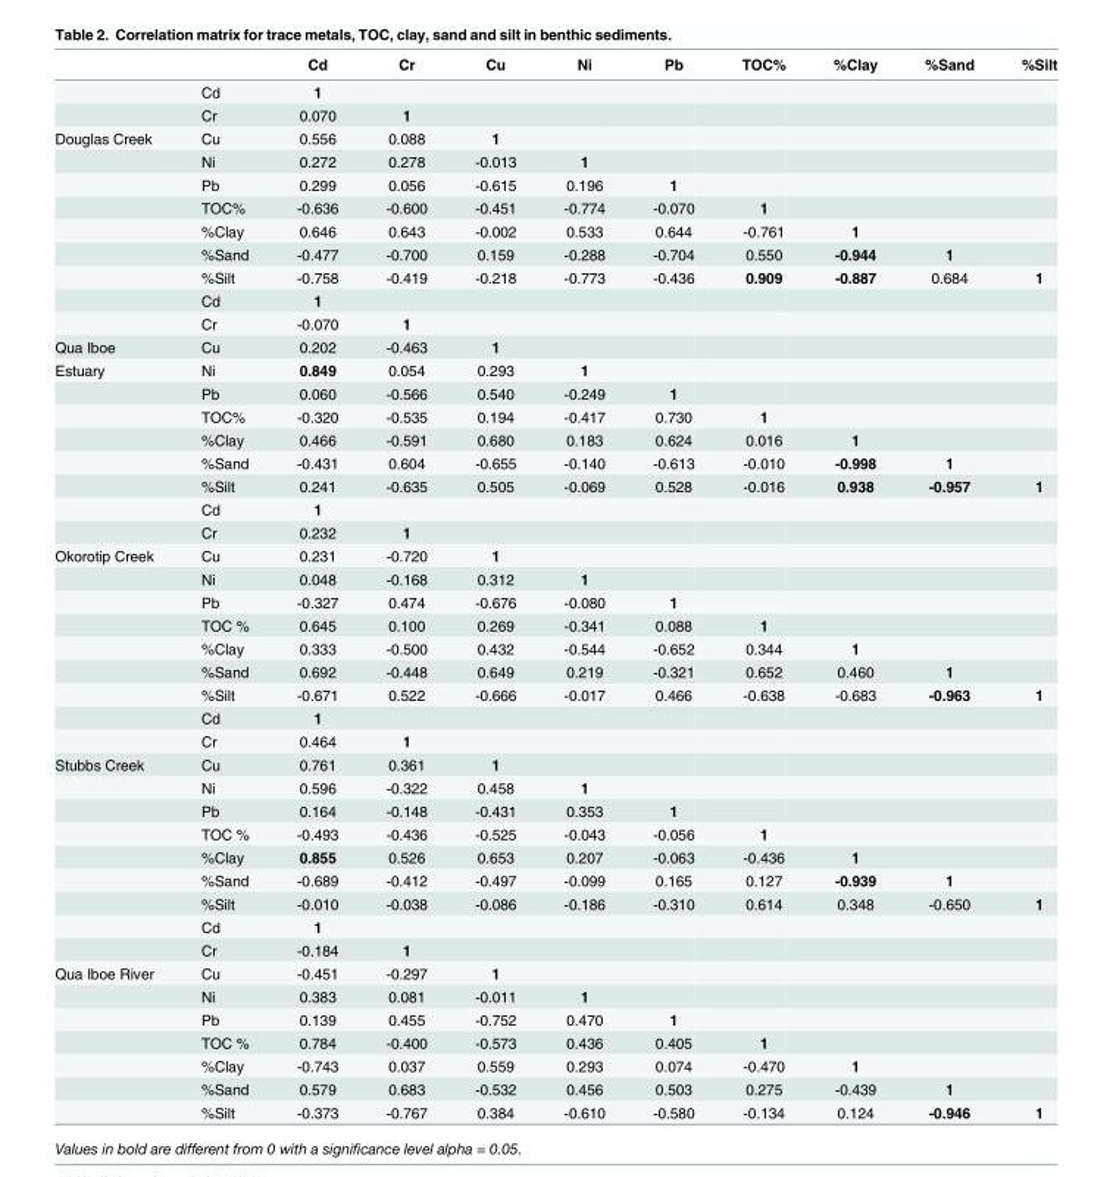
<table><thead><tr><td></td><td></td><td>Cd</td><td>Cr</td><td>Cu</td><td>Ni</td><td>Pb</td><td>TOC%</td><td>%Clay</td><td>%Sand</td><td>%Silt</td></tr></thead><tbody><tr><td></td><td>Cd</td><td>1</td><td></td><td></td><td></td><td></td><td></td><td></td><td></td><td></td></tr><tr><td></td><td>Cr</td><td>0.070</td><td>1</td><td></td><td></td><td></td><td></td><td></td><td></td><td></td></tr><tr><td rowspan="9">Douglas Creek</td><td>Cu</td><td>0.556</td><td>0.088</td><td>1</td><td></td><td></td><td></td><td></td><td></td><td></td></tr><tr><td>Ni</td><td>0.272</td><td>0.278</td><td>-0.013</td><td>1</td><td></td><td></td><td></td><td></td><td></td></tr><tr><td>Pb</td><td>0.299</td><td>0.056</td><td>-0.615</td><td>0.196</td><td>1</td><td></td><td></td><td></td><td></td></tr><tr><td>TOC%</td><td>-0.636</td><td>-0.600</td><td>-0.451</td><td>-0.774</td><td>-0.070</td><td>1</td><td></td><td></td><td></td></tr><tr><td>%Clay</td><td>0.646</td><td>0.643</td><td>-0.002</td><td>0.533</td><td>0.644</td><td>-0.761</td><td>1</td><td></td><td></td></tr><tr><td>%Sand</td><td>-0.477</td><td>-0.700</td><td>0.159</td><td>-0.288</td><td>-0.704</td><td>0.550</td><td>-0.944</td><td>1</td><td></td></tr><tr><td>%Silt</td><td>-0.758</td><td>-0.419</td><td>-0.218</td><td>-0.773</td><td>-0.436</td><td>0.909</td><td>-0.887</td><td>0.684</td><td>1</td></tr><tr><td>Cd</td><td>1</td><td></td><td></td><td></td><td></td><td></td><td></td><td></td><td></td></tr><tr><td>Cr</td><td>-0.070</td><td>1</td><td></td><td></td><td></td><td></td><td></td><td></td><td></td></tr><tr><td>Qua Iboe</td><td>Cu</td><td>0.202</td><td>-0.463</td><td>1</td><td></td><td></td><td></td><td></td><td></td><td></td></tr><tr><td rowspan="8">Estuary</td><td>Ni</td><td>0.849</td><td>0.054</td><td>0.293</td><td>1</td><td></td><td></td><td></td><td></td><td></td></tr><tr><td>Pb</td><td>0.060</td><td>-0.566</td><td>0.540</td><td>-0.249</td><td>1</td><td></td><td></td><td></td><td></td></tr><tr><td>TOC%</td><td>-0.320</td><td>-0.535</td><td>0.194</td><td>-0.417</td><td>0.730</td><td>1</td><td></td><td></td><td></td></tr><tr><td>%Clay</td><td>0.466</td><td>-0.591</td><td>0.680</td><td>0.183</td><td>0.624</td><td>0.016</td><td>1</td><td></td><td></td></tr><tr><td>%Sand</td><td>-0.431</td><td>0.604</td><td>-0.655</td><td>-0.140</td><td>-0.613</td><td>-0.010</td><td>-0.998</td><td>1</td><td></td></tr><tr><td>%Silt</td><td>0.241</td><td>-0.635</td><td>0.505</td><td>-0.069</td><td>0.528</td><td>-0.016</td><td>0.938</td><td>-0.957</td><td>1</td></tr><tr><td>Cd</td><td>1</td><td></td><td></td><td></td><td></td><td></td><td></td><td></td><td></td></tr><tr><td>Cr</td><td>0.232</td><td>1</td><td></td><td></td><td></td><td></td><td></td><td></td><td></td></tr><tr><td rowspan="9">Okorotip Creek</td><td>Cu</td><td>0.231</td><td>-0.720</td><td>1</td><td></td><td></td><td></td><td></td><td></td><td></td></tr><tr><td>Ni</td><td>0.048</td><td>-0.168</td><td>0.312</td><td>1</td><td></td><td></td><td></td><td></td><td></td></tr><tr><td>Pb</td><td>-0.327</td><td>0.474</td><td>-0.676</td><td>-0.080</td><td>1</td><td></td><td></td><td></td><td></td></tr><tr><td>TOC %</td><td>0.645</td><td>0.100</td><td>0.269</td><td>-0.341</td><td>0.088</td><td>1</td><td></td><td></td><td></td></tr><tr><td>%Clay</td><td>0.333</td><td>-0.500</td><td>0.432</td><td>-0.544</td><td>-0.652</td><td>0.344</td><td>1</td><td></td><td></td></tr><tr><td>%Sand</td><td>0.692</td><td>-0.448</td><td>0.649</td><td>0.219</td><td>-0.321</td><td>0.652</td><td>0.460</td><td>1</td><td></td></tr><tr><td>%Silt</td><td>-0.671</td><td>0.522</td><td>-0.666</td><td>-0.017</td><td>0.466</td><td>-0.638</td><td>-0.683</td><td>-0.963</td><td>1</td></tr><tr><td>Cd</td><td>1</td><td></td><td></td><td></td><td></td><td></td><td></td><td></td><td></td></tr><tr><td>Cr</td><td>0.464</td><td>1</td><td></td><td></td><td></td><td></td><td></td><td></td><td></td></tr><tr><td rowspan="9">Stubbs Creek</td><td>Cu</td><td>0.761</td><td>0.361</td><td>1</td><td></td><td></td><td></td><td></td><td></td><td></td></tr><tr><td>Ni</td><td>0.596</td><td>-0.322</td><td>0.458</td><td>1</td><td></td><td></td><td></td><td></td><td></td></tr><tr><td>Pb</td><td>0.164</td><td>-0.148</td><td>-0.431</td><td>0.353</td><td>1</td><td></td><td></td><td></td><td></td></tr><tr><td>TOC %</td><td>-0.493</td><td>-0.436</td><td>-0.525</td><td>-0.043</td><td>-0.056</td><td>1</td><td></td><td></td><td></td></tr><tr><td>%Clay</td><td>0.855</td><td>0.526</td><td>0.653</td><td>0.207</td><td>-0.063</td><td>-0.436</td><td>1</td><td></td><td></td></tr><tr><td>%Sand</td><td>-0.689</td><td>-0.412</td><td>-0.497</td><td>-0.099</td><td>0.165</td><td>0.127</td><td>-0.939</td><td>1</td><td></td></tr><tr><td>%Silt</td><td>-0.010</td><td>-0.038</td><td>-0.086</td><td>-0.186</td><td>-0.310</td><td>0.614</td><td>0.348</td><td>-0.650</td><td>1</td></tr><tr><td>Cd</td><td>1</td><td></td><td></td><td></td><td></td><td></td><td></td><td></td><td></td></tr><tr><td>Cr</td><td>-0.184</td><td>1</td><td></td><td></td><td></td><td></td><td></td><td></td><td></td></tr><tr><td rowspan="7">Qua Iboe River</td><td>Cu</td><td>-0.451</td><td>-0.297</td><td>1</td><td></td><td></td><td></td><td></td><td></td><td></td></tr><tr><td>Ni</td><td>0.383</td><td>0.081</td><td>-0.011</td><td>1</td><td></td><td></td><td></td><td></td><td></td></tr><tr><td>Pb</td><td>0.139</td><td>0.455</td><td>-0.752</td><td>0.470</td><td>1</td><td></td><td></td><td></td><td></td></tr><tr><td>TOC %</td><td>0.784</td><td>-0.400</td><td>-0.573</td><td>0.436</td><td>0.405</td><td>1</td><td></td><td></td><td></td></tr><tr><td>%Clay</td><td>-0.743</td><td>0.037</td><td>0.559</td><td>0.293</td><td>0.074</td><td>-0.470</td><td>1</td><td></td><td></td></tr><tr><td>%Sand</td><td>0.579</td><td>0.683</td><td>-0.532</td><td>0.456</td><td>0.503</td><td>0.275</td><td>-0.439</td><td>1</td><td></td></tr><tr><td>%Silt</td><td>-0.373</td><td>-0.767</td><td>0.384</td><td>-0.610</td><td>-0.580</td><td>-0.134</td><td>0.124</td><td>-0.946</td><td>1</td></tr></tbody></table>